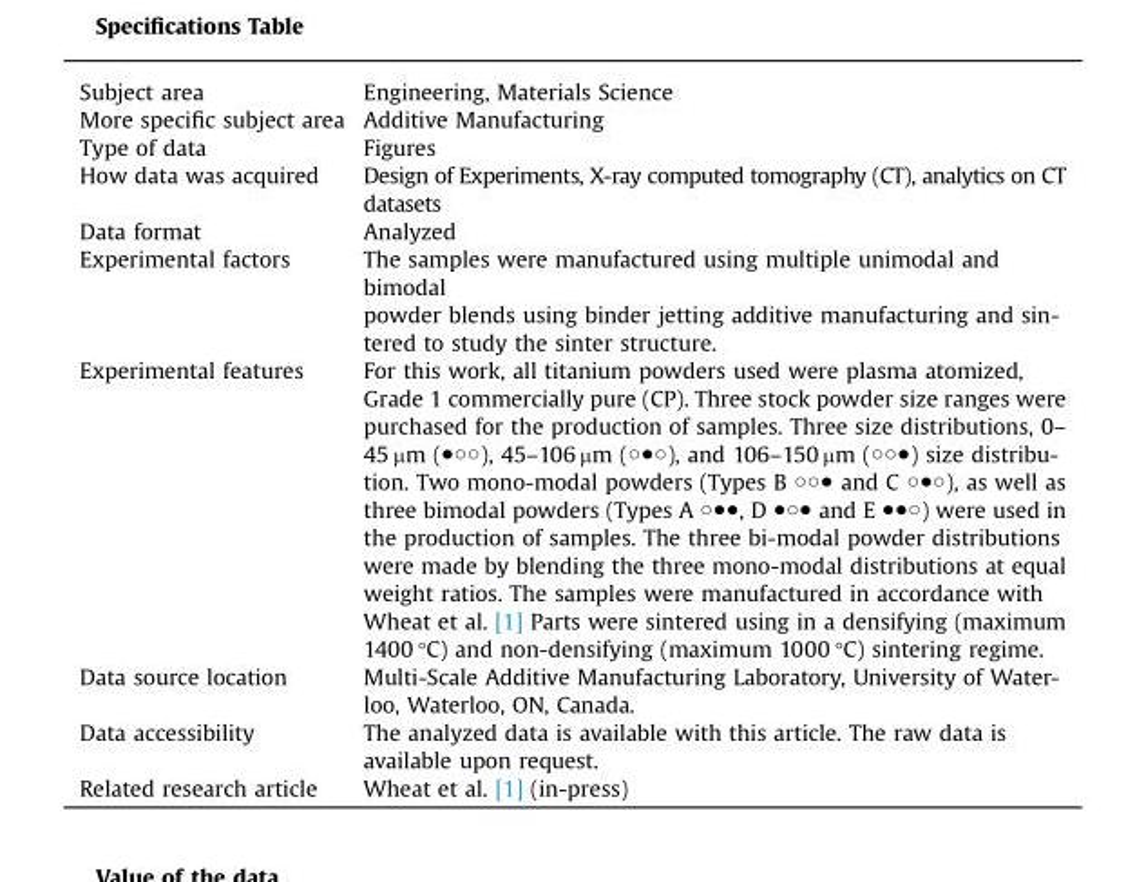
<table><tbody><tr><td>Subject area</td><td>Engineering, Materials Science</td></tr><tr><td>More specific subject area</td><td>Additive Manufacturing</td></tr><tr><td>Type of data</td><td>Figures</td></tr><tr><td>How data was acquired</td><td>Design of Experiments, X-ray computed tomography (CT), analytics on CT datasets</td></tr><tr><td>Data format</td><td>Analyzed</td></tr><tr><td>Experimental factors</td><td>The samples were manufactured using multiple unimodal and bimodal powder blends using binder jetting additive manufacturing and sin- tered to study the sinter structure.</td></tr><tr><td>Experimental features</td><td>For this work, all titanium powders used were plasma atomized, Grade 1 commercially pure (CP). Three stock powder size ranges were purchased for the production of samples. Three size distributions, 0– 45 mm (●○○), 45–106 mm (○●○), and 106–150 mm (○○●) size distribu- tion. Two mono-modal powders (Types B ○○● and C ○●○), as well as three bimodal powders (Types A ○●●, D ●○● and E ●●○) were used in the production of samples. The three bi-modal powder distributions were made by blending the three mono-modal distributions at equal weight ratios. The samples were manufactured in accordance with Wheat et al. [1] Parts were sintered using in a densifying (maximum 1400 °C) and non-densifying (maximum 1000 °C) sintering regime.</td></tr><tr><td>Data source location</td><td>Multi-Scale Additive Manufacturing Laboratory, University of Water- loo, Waterloo, ON, Canada.</td></tr><tr><td>Data accessibility</td><td>The analyzed data is available with this article. The raw data is available upon request.</td></tr><tr><td>Related research article</td><td>Wheat et al. [1] (in-press)</td></tr></tbody></table>